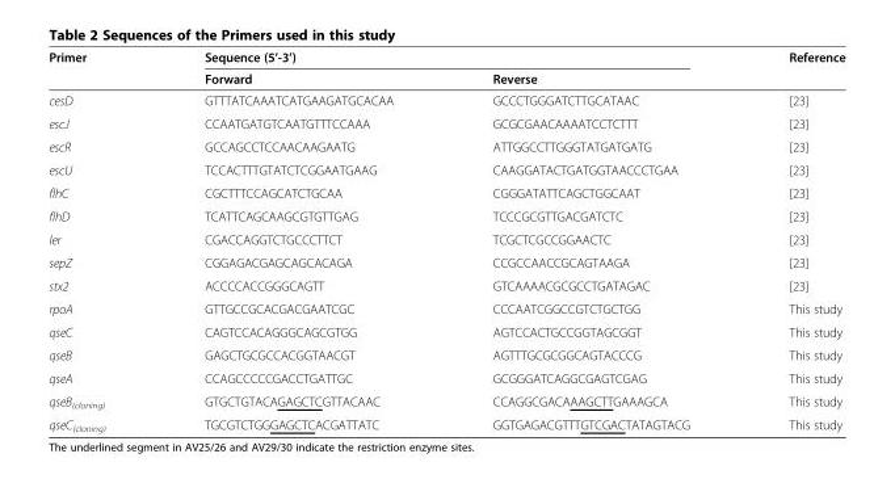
<table><thead><tr><td rowspan="2">Primer</td><td colspan="2">Sequence (5’-3’)</td><td rowspan="2">Reference</td></tr><tr><td>Forward</td><td>Reverse</td></tr></thead><tbody><tr><td>cesD</td><td>GTTTATCAAATCATGAAGATGCACAA</td><td>GCCCTGGGATCTTGCATAAC</td><td>[23]</td></tr><tr><td>escJ</td><td>CCAATGATGTCAATGTTTCCAAA</td><td>GCGCGAACAAAATCCTCTTT</td><td>[23]</td></tr><tr><td>escR</td><td>GCCAGCCTCCAACAAGAATG</td><td>ATTGGCCTTGGGTATGATGATG</td><td>[23]</td></tr><tr><td>escU</td><td>TCCACTTTGTATCTCGGAATGAAG</td><td>CAAGGATACTGATGGTAACCCTGAA</td><td>[23]</td></tr><tr><td>flhC</td><td>CGCTTTCCAGCATCTGCAA</td><td>CGGGATATTCAGCTGGCAAT</td><td>[23]</td></tr><tr><td>flhD</td><td>TCATTCAGCAAGCGTGTTGAG</td><td>TCCCGCGTTGACGATCTC</td><td>[23]</td></tr><tr><td>ler</td><td>CGACCAGGTCTGCCCTTCT</td><td>TCGCTCGCCGGAACTC</td><td>[23]</td></tr><tr><td>sepZ</td><td>CGGAGACGAGCAGCACAGA</td><td>CCGCCAACCGCAGTAAGA</td><td>[23]</td></tr><tr><td>stx2</td><td>ACCCCACCGGGCAGTT</td><td>GTCAAAACGCGCCTGATAGAC</td><td>[23]</td></tr><tr><td>rpoA</td><td>GTTGCCGCACGACGAATCGC</td><td>CCCAATCGGCCGTCTGCTGG</td><td>This study</td></tr><tr><td>qseC</td><td>CAGTCCACAGGGCAGCGTGG</td><td>AGTCCACTGCCGGTAGCGGT</td><td>This study</td></tr><tr><td>qseB</td><td>GAGCTGCGCCACGGTAACGT</td><td>AGTTTGCGCGGCAGTACCCG</td><td>This study</td></tr><tr><td>qseA</td><td>CCAGCCCCCGACCTGATTGC</td><td>GCGGGATCAGGCGAGTCGAG</td><td>This study</td></tr><tr><td>qseB<sub>(cloning)</sub></td><td>GTGCTGTACAGAGCTCGTTACAAC</td><td>CCAGGCGACAAAGCTTGAAAGCA</td><td>This study</td></tr><tr><td>qseC<sub>(cloning)</sub></td><td>TGCGTCTGGGAGCTCACGATTATC</td><td>GGTGAGACGTTTGTCGACTATAGTACG</td><td>This study</td></tr></tbody></table>